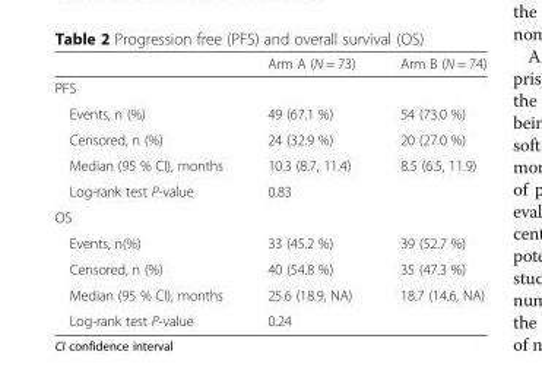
<table><thead><tr><td></td><td>Arm A (N = 73)</td><td>Arm B (N = 74)</td></tr></thead><tbody><tr><td colspan="3">PFS</td></tr><tr><td>Events, n (%)</td><td>49 (67.1 %)</td><td>54 (73.0 %)</td></tr><tr><td>Censored, n (%)</td><td>24 (32.9 %)</td><td>20 (27.0 %)</td></tr><tr><td>Median (95 % CI), months</td><td>10.3 (8.7, 11.4)</td><td>8.5 (6.5, 11.9)</td></tr><tr><td>Log-rank test P-value</td><td colspan="2">0.83</td></tr><tr><td colspan="3">OS</td></tr><tr><td>Events, n(%)</td><td>33 (45.2 %)</td><td>39 (52.7 %)</td></tr><tr><td>Censored, n (%)</td><td>40 (54.8 %)</td><td>35 (47.3 %)</td></tr><tr><td>Median (95 % CI), months</td><td>25.6 (18.9, NA)</td><td>18.7 (14.6, NA)</td></tr><tr><td>Log-rank test P-value</td><td colspan="2">0.24</td></tr></tbody></table>